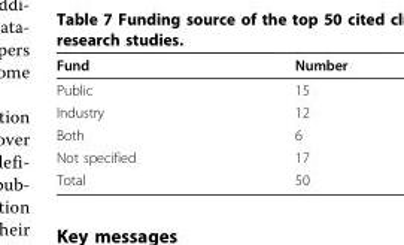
<table><thead><tr><td>Fund</td><td>Number</td></tr></thead><tbody><tr><td>Public</td><td>15</td></tr><tr><td>Industry</td><td>12</td></tr><tr><td>Both</td><td>6</td></tr><tr><td>Not specified</td><td>17</td></tr><tr><td>Total</td><td>50</td></tr></tbody></table>